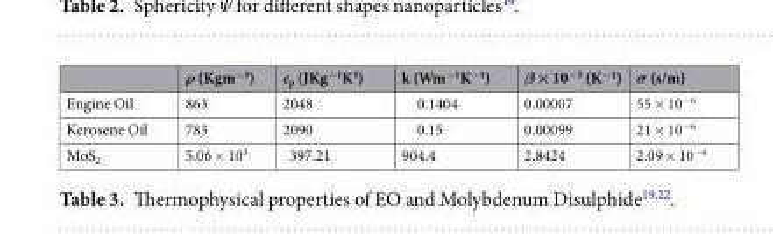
<table><thead><tr><td></td><td>ρ (Kgm<sup>−3</sup>)</td><td>c<sub>p</sub> (JKg<sup>−1</sup>K<sup>1</sup>)</td><td>k (Wm<sup>−1</sup>K<sup>−1</sup>)</td><td>β × 10<sup>−5</sup> (K<sup>−1</sup>)</td><td>σ (s/m)</td></tr></thead><tbody><tr><td>Engine Oil</td><td>863</td><td>2048</td><td>0.1404</td><td>0.00007</td><td>55 × 10<sup>−6</sup></td></tr><tr><td>Kerosene Oil</td><td>783</td><td>2090</td><td>0.15</td><td>0.00099</td><td>21 × 10<sup>−6</sup></td></tr><tr><td>MoS<sub>2</sub></td><td>5.06 × 10<sup>3</sup></td><td>397.21</td><td>904.4</td><td>2.8424</td><td>2.09 × 10<sup>−4</sup></td></tr></tbody></table>